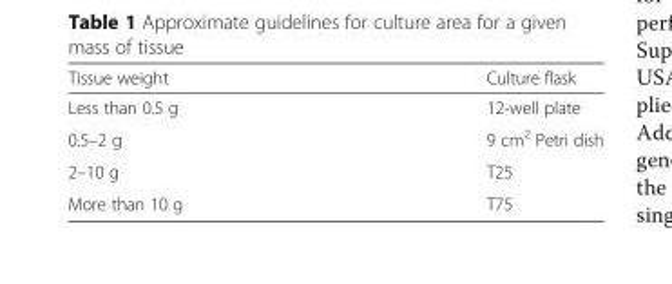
<table><thead><tr><td>Tissue weight</td><td>Culture flask</td></tr></thead><tbody><tr><td>Less than 0.5 g</td><td>12-well plate</td></tr><tr><td>0.5–2 g</td><td>9 cm<sup>2</sup> Petri dish</td></tr><tr><td>2–10 g</td><td>T25</td></tr><tr><td>More than 10 g</td><td>T75</td></tr></tbody></table>